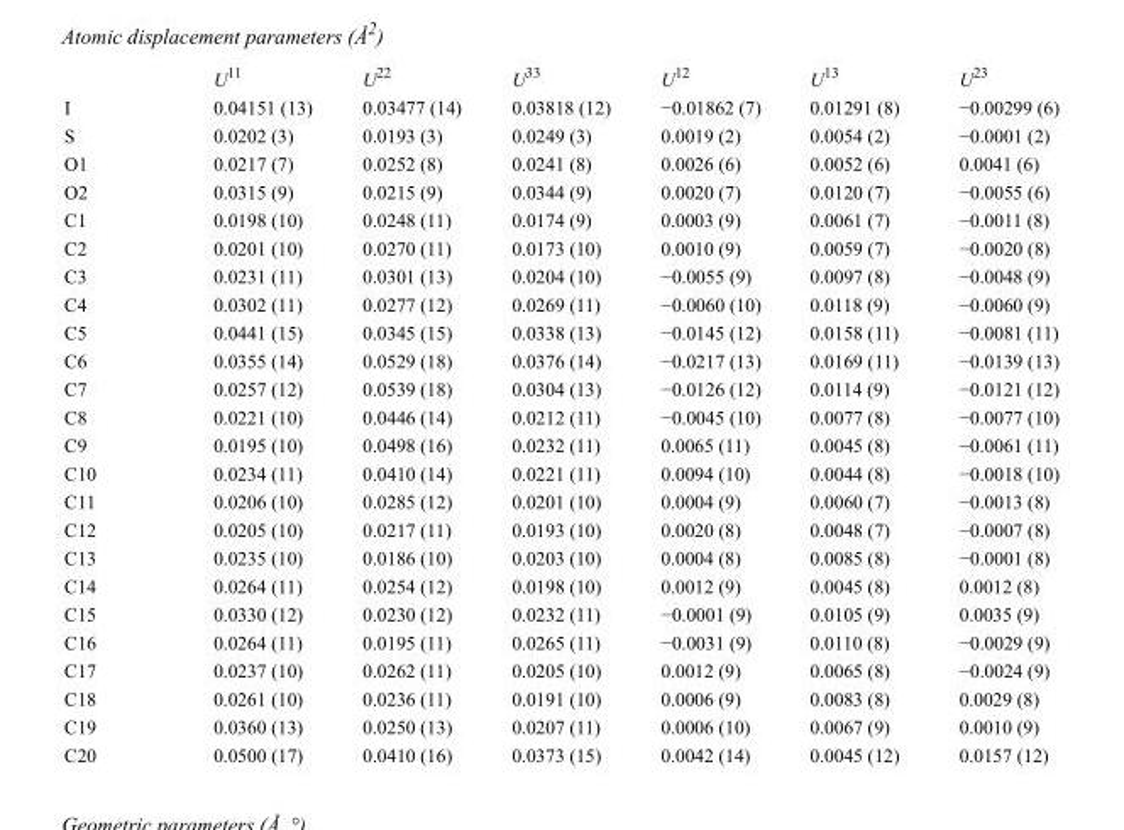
<table><thead><tr><td></td><td>U<sup>11</sup></td><td>U<sup>22</sup></td><td>U<sup>33</sup></td><td>U<sup>12</sup></td><td>U<sup>13</sup></td><td>U<sup>23</sup></td></tr></thead><tbody><tr><td>I</td><td>0.04151 (13)</td><td>0.03477 (14)</td><td>0.03818 (12)</td><td>−0.01862 (7)</td><td>0.01291 (8)</td><td>−0.00299 (6)</td></tr><tr><td>S</td><td>0.0202 (3)</td><td>0.0193 (3)</td><td>0.0249 (3)</td><td>0.0019 (2)</td><td>0.0054 (2)</td><td>−0.0001 (2)</td></tr><tr><td>O1</td><td>0.0217 (7)</td><td>0.0252 (8)</td><td>0.0241 (8)</td><td>0.0026 (6)</td><td>0.0052 (6)</td><td>0.0041 (6)</td></tr><tr><td>O2</td><td>0.0315 (9)</td><td>0.0215 (9)</td><td>0.0344 (9)</td><td>0.0020 (7)</td><td>0.0120 (7)</td><td>−0.0055 (6)</td></tr><tr><td>C1</td><td>0.0198 (10)</td><td>0.0248 (11)</td><td>0.0174 (9)</td><td>0.0003 (9)</td><td>0.0061 (7)</td><td>−0.0011 (8)</td></tr><tr><td>C2</td><td>0.0201 (10)</td><td>0.0270 (11)</td><td>0.0173 (10)</td><td>0.0010 (9)</td><td>0.0059 (7)</td><td>−0.0020 (8)</td></tr><tr><td>C3</td><td>0.0231 (11)</td><td>0.0301 (13)</td><td>0.0204 (10)</td><td>−0.0055 (9)</td><td>0.0097 (8)</td><td>−0.0048 (9)</td></tr><tr><td>C4</td><td>0.0302 (11)</td><td>0.0277 (12)</td><td>0.0269 (11)</td><td>−0.0060 (10)</td><td>0.0118 (9)</td><td>−0.0060 (9)</td></tr><tr><td>C5</td><td>0.0441 (15)</td><td>0.0345 (15)</td><td>0.0338 (13)</td><td>−0.0145 (12)</td><td>0.0158 (11)</td><td>−0.0081 (11)</td></tr><tr><td>C6</td><td>0.0355 (14)</td><td>0.0529 (18)</td><td>0.0376 (14)</td><td>−0.0217 (13)</td><td>0.0169 (11)</td><td>−0.0139 (13)</td></tr><tr><td>C7</td><td>0.0257 (12)</td><td>0.0539 (18)</td><td>0.0304 (13)</td><td>−0.0126 (12)</td><td>0.0114 (9)</td><td>−0.0121 (12)</td></tr><tr><td>C8</td><td>0.0221 (10)</td><td>0.0446 (14)</td><td>0.0212 (11)</td><td>−0.0045 (10)</td><td>0.0077 (8)</td><td>−0.0077 (10)</td></tr><tr><td>C9</td><td>0.0195 (10)</td><td>0.0498 (16)</td><td>0.0232 (11)</td><td>0.0065 (11)</td><td>0.0045 (8)</td><td>−0.0061 (11)</td></tr><tr><td>C10</td><td>0.0234 (11)</td><td>0.0410 (14)</td><td>0.0221 (11)</td><td>0.0094 (10)</td><td>0.0044 (8)</td><td>−0.0018 (10)</td></tr><tr><td>C11</td><td>0.0206 (10)</td><td>0.0285 (12)</td><td>0.0201 (10)</td><td>0.0004 (9)</td><td>0.0060 (7)</td><td>−0.0013 (8)</td></tr><tr><td>C12</td><td>0.0205 (10)</td><td>0.0217 (11)</td><td>0.0193 (10)</td><td>0.0020 (8)</td><td>0.0048 (7)</td><td>−0.0007 (8)</td></tr><tr><td>C13</td><td>0.0235 (10)</td><td>0.0186 (10)</td><td>0.0203 (10)</td><td>0.0004 (8)</td><td>0.0085 (8)</td><td>−0.0001 (8)</td></tr><tr><td>C14</td><td>0.0264 (11)</td><td>0.0254 (12)</td><td>0.0198 (10)</td><td>0.0012 (9)</td><td>0.0045 (8)</td><td>0.0012 (8)</td></tr><tr><td>C15</td><td>0.0330 (12)</td><td>0.0230 (12)</td><td>0.0232 (11)</td><td>−0.0001 (9)</td><td>0.0105 (9)</td><td>0.0035 (9)</td></tr><tr><td>C16</td><td>0.0264 (11)</td><td>0.0195 (11)</td><td>0.0265 (11)</td><td>−0.0031 (9)</td><td>0.0110 (8)</td><td>−0.0029 (9)</td></tr><tr><td>C17</td><td>0.0237 (10)</td><td>0.0262 (11)</td><td>0.0205 (10)</td><td>0.0012 (9)</td><td>0.0065 (8)</td><td>−0.0024 (9)</td></tr><tr><td>C18</td><td>0.0261 (10)</td><td>0.0236 (11)</td><td>0.0191 (10)</td><td>0.0006 (9)</td><td>0.0083 (8)</td><td>0.0029 (8)</td></tr><tr><td>C19</td><td>0.0360 (13)</td><td>0.0250 (13)</td><td>0.0207 (11)</td><td>0.0006 (10)</td><td>0.0067 (9)</td><td>0.0010 (9)</td></tr><tr><td>C20</td><td>0.0500 (17)</td><td>0.0410 (16)</td><td>0.0373 (15)</td><td>0.0042 (14)</td><td>0.0045 (12)</td><td>0.0157 (12)</td></tr></tbody></table>